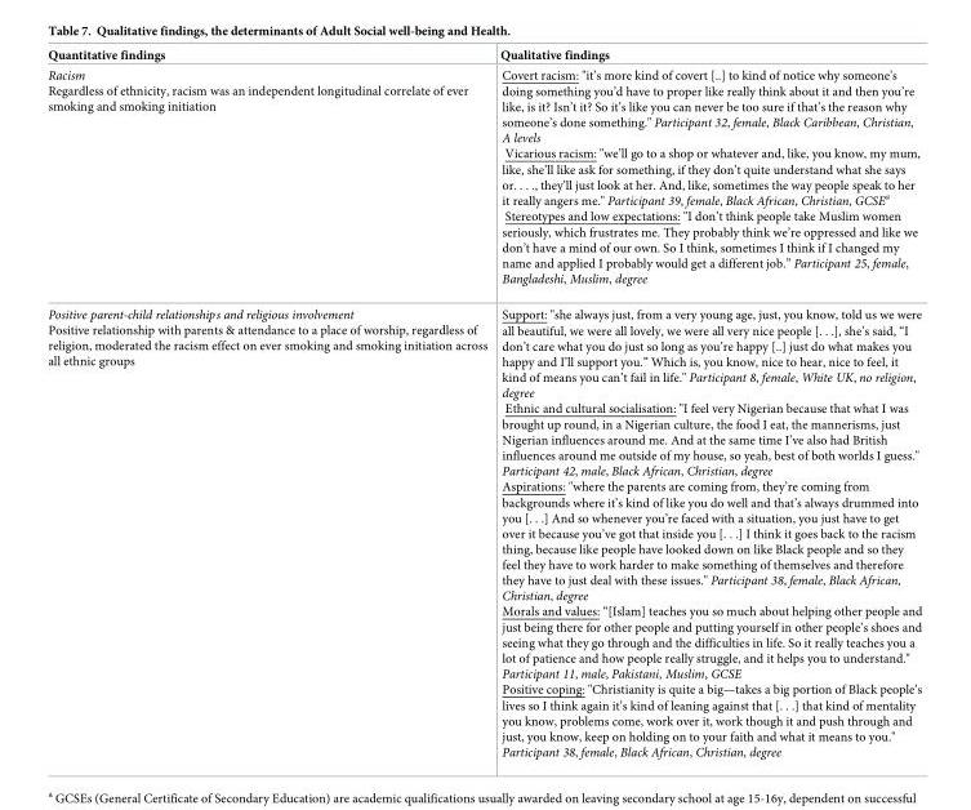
<table><thead><tr><td>Quantitative findings</td><td>Qualitative findings</td></tr></thead><tbody><tr><td>Racism Regardless of ethnicity, racism was an independent longitudinal correlate of ever smoking and smoking initiation</td><td>Covert racism: &quot;it’s more kind of covert [..] to kind of notice why someone’s doing something you’d have to proper like really think about it and then you’re like, is it? Isn’t it? So it’s like you can never be too sure if that’s the reason why someone’s done something.&quot; Participant 32, female, Black Caribbean, Christian, A levels Vicarious racism: &quot;we’ll go to a shop or whatever and, like, you know, my mum, like, she’ll like ask for something, if they don’t quite understand what she says or. . . ., they’ll just look at her. And, like, sometimes the way people speak to her it really angers me.&quot; Participant 39, female, Black African, Christian, GCSE<sup>a</sup> Stereotypes and low expectations: &quot;I don’t think people take Muslim women seriously, which frustrates me. They probably think we’re oppressed and like we don’t have a mind of our own. So I think, sometimes I think if I changed my name and applied I probably would get a different job.” Participant 25, female, Bangladeshi, Muslim, degree</td></tr><tr><td>Positive parent-child relationships and religious involvement Positive relationship with parents &amp; attendance to a place of worship, regardless of religion, moderated the racism effect on ever smoking and smoking initiation across all ethnic groups</td><td>Support: &quot;she always just, from a very young age, just, you know, told us we were all beautiful, we were all lovely, we were all very nice people [. . .], she’s said, “I don’t care what you do just so long as you’re happy [..] just do what makes you happy and I’ll support you.” Which is, you know, nice to hear, nice to feel, it kind of means you can’t fail in life.&quot; Participant 8, female, White UK, no religion, degree Ethnic and cultural socialisation: &quot;I feel very Nigerian because that what I was brought up round, in a Nigerian culture, the food I eat, the mannerisms, just Nigerian influences around me. And at the same time I’ve also had British influences around me outside of my house, so yeah, best of both worlds I guess.&quot; Participant 42, male, Black African, Christian, degree Aspirations: &quot;where the parents are coming from, they’re coming from backgrounds where it’s kind of like you do well and that’s always drummed into you [. . .] And so whenever you’re faced with a situation, you just have to get over it because you’ve got that inside you [. . .] I think it goes back to the racism thing, because like people have looked down on like Black people and so they feel they have to work harder to make something of themselves and therefore they have to just deal with these issues.&quot; Participant 38, female, Black African, Christian, degree Morals and values: “[Islam] teaches you so much about helping other people and just being there for other people and putting yourself in other people’s shoes and seeing what they go through and the difficulties in life. So it really teaches you a lot of patience and how people really struggle, and it helps you to understand.&quot; Participant 11, male, Pakistani, Muslim, GCSE Positive coping: &quot;Christianity is quite a big—takes a big portion of Black people’s lives so I think again it’s kind of leaning against that [. . .] that kind of mentality you know, problems come, work over it, work though it and push through and just, you know, keep on holding on to your faith and what it means to you.&quot; Participant 38, female, Black African, Christian, degree</td></tr></tbody></table>